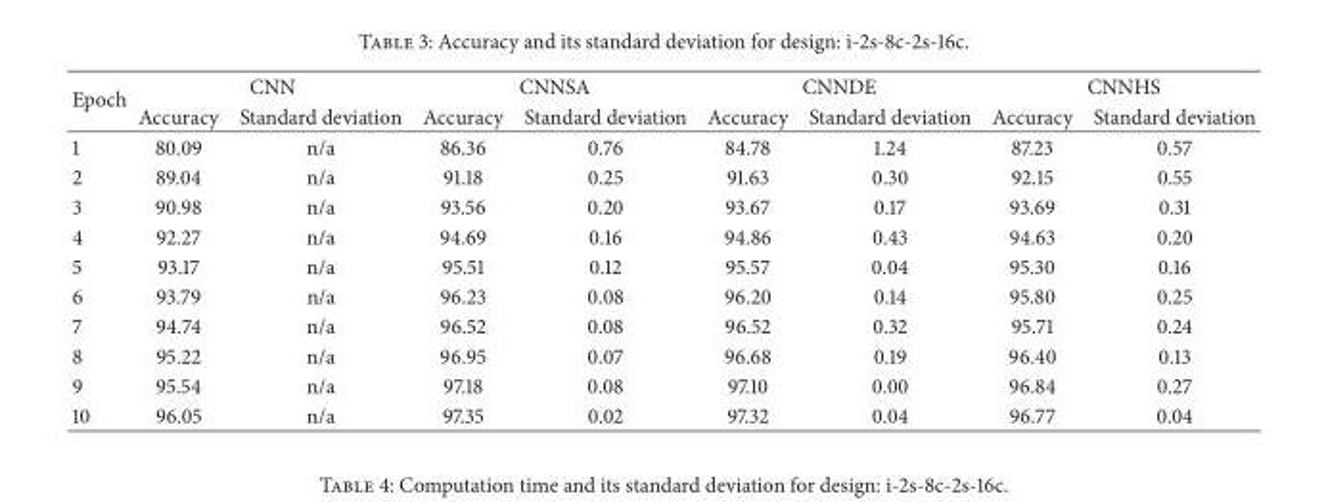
<table><thead><tr><td rowspan="2">Epoch</td><td colspan="2">CNN</td><td colspan="2">CNNSA</td><td colspan="2">CNNDE</td><td colspan="2">CNNHS</td></tr><tr><td>Accuracy</td><td>Standard deviation</td><td>Accuracy</td><td>Standard deviation</td><td>Accuracy</td><td>Standard deviation</td><td>Accuracy</td><td>Standard deviation</td></tr></thead><tbody><tr><td>1</td><td>80.09</td><td>n/a</td><td>86.36</td><td>0.76</td><td>84.78</td><td>1.24</td><td>87.23</td><td>0.57</td></tr><tr><td>2</td><td>89.04</td><td>n/a</td><td>91.18</td><td>0.25</td><td>91.63</td><td>0.30</td><td>92.15</td><td>0.55</td></tr><tr><td>3</td><td>90.98</td><td>n/a</td><td>93.56</td><td>0.20</td><td>93.67</td><td>0.17</td><td>93.69</td><td>0.31</td></tr><tr><td>4</td><td>92.27</td><td>n/a</td><td>94.69</td><td>0.16</td><td>94.86</td><td>0.43</td><td>94.63</td><td>0.20</td></tr><tr><td>5</td><td>93.17</td><td>n/a</td><td>95.51</td><td>0.12</td><td>95.57</td><td>0.04</td><td>95.30</td><td>0.16</td></tr><tr><td>6</td><td>93.79</td><td>n/a</td><td>96.23</td><td>0.08</td><td>96.20</td><td>0.14</td><td>95.80</td><td>0.25</td></tr><tr><td>7</td><td>94.74</td><td>n/a</td><td>96.52</td><td>0.08</td><td>96.52</td><td>0.32</td><td>95.71</td><td>0.24</td></tr><tr><td>8</td><td>95.22</td><td>n/a</td><td>96.95</td><td>0.07</td><td>96.68</td><td>0.19</td><td>96.40</td><td>0.13</td></tr><tr><td>9</td><td>95.54</td><td>n/a</td><td>97.18</td><td>0.08</td><td>97.10</td><td>0.00</td><td>96.84</td><td>0.27</td></tr><tr><td>10</td><td>96.05</td><td>n/a</td><td>97.35</td><td>0.02</td><td>97.32</td><td>0.04</td><td>96.77</td><td>0.04</td></tr></tbody></table>